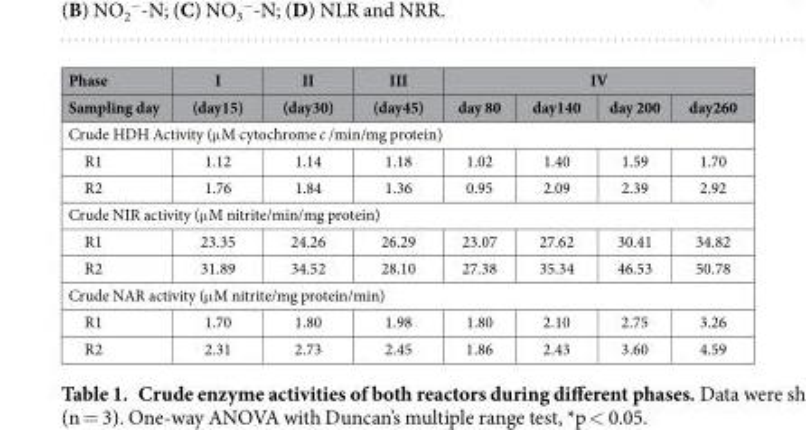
<table><thead><tr><td rowspan="2">Phase Sampling day</td><td rowspan="2">I (day15)</td><td rowspan="2">II (day30)</td><td rowspan="2">III (day45)</td><td colspan="4">IV</td></tr><tr><td>day 80</td><td>day140</td><td>day 200</td><td>day260</td></tr></thead><tbody><tr><td colspan="8">Crude HDH Activity (μ M cytochrome c /min/mg protein)</td></tr><tr><td>R1</td><td>1.12</td><td>1.14</td><td>1.18</td><td>1.02</td><td>1.40</td><td>1.59</td><td>1.70</td></tr><tr><td>R2</td><td>1.76</td><td>1.84</td><td>1.36</td><td>0.95</td><td>2.09</td><td>2.39</td><td>2.92</td></tr><tr><td colspan="8">Crude NIR activity (μ M nitrite/min/mg protein)</td></tr><tr><td>R1</td><td>23.35</td><td>24.26</td><td>26.29</td><td>23.07</td><td>27.62</td><td>30.41</td><td>34.82</td></tr><tr><td>R2</td><td>31.89</td><td>34.52</td><td>28.10</td><td>27.38</td><td>35.34</td><td>46.53</td><td>50.78</td></tr><tr><td colspan="8">Crude NAR activity (μ M nitrite/mg protein/min)</td></tr><tr><td>R1</td><td>1.70</td><td>1.80</td><td>1.98</td><td>1.80</td><td>2.10</td><td>2.75</td><td>3.26</td></tr><tr><td>R2</td><td>2.31</td><td>2.73</td><td>2.45</td><td>1.86</td><td>2.43</td><td>3.60</td><td>4.59</td></tr></tbody></table>